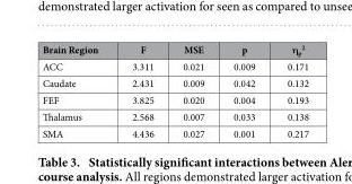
<table><thead><tr><td>Brain Region</td><td>F</td><td>MSE</td><td>p</td><td>η <sub>p</sub> <sup>2</sup></td></tr></thead><tbody><tr><td>ACC</td><td>3.311</td><td>0.021</td><td>0.009</td><td>0.171</td></tr><tr><td>Caudate</td><td>2.431</td><td>0.009</td><td>0.042</td><td>0.132</td></tr><tr><td>FEF</td><td>3.825</td><td>0.020</td><td>0.004</td><td>0.193</td></tr><tr><td>Thalamus</td><td>2.568</td><td>0.007</td><td>0.033</td><td>0.138</td></tr><tr><td>SMA</td><td>4.436</td><td>0.027</td><td>0.001</td><td>0.217</td></tr></tbody></table>